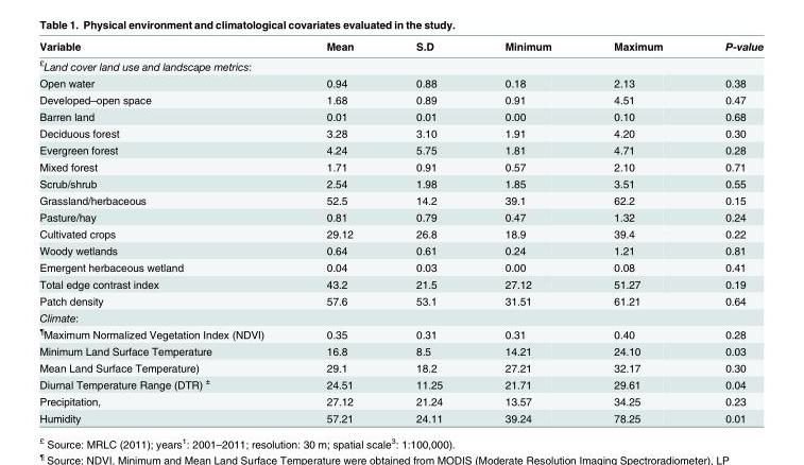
<table><thead><tr><td>Variable</td><td>Mean</td><td>S.D</td><td>Minimum</td><td>Maximum</td><td>P-value</td></tr></thead><tbody><tr><td colspan="6"><sup>£</sup>Land cover land use and landscape metrics:</td></tr><tr><td>Open water</td><td>0.94</td><td>0.88</td><td>0.18</td><td>2.13</td><td>0.38</td></tr><tr><td>Developed–open space</td><td>1.68</td><td>0.89</td><td>0.91</td><td>4.51</td><td>0.47</td></tr><tr><td>Barren land</td><td>0.01</td><td>0.01</td><td>0.00</td><td>0.10</td><td>0.68</td></tr><tr><td>Deciduous forest</td><td>3.28</td><td>3.10</td><td>1.91</td><td>4.20</td><td>0.30</td></tr><tr><td>Evergreen forest</td><td>4.24</td><td>5.75</td><td>1.81</td><td>4.71</td><td>0.28</td></tr><tr><td>Mixed forest</td><td>1.71</td><td>0.91</td><td>0.57</td><td>2.10</td><td>0.71</td></tr><tr><td>Scrub/shrub</td><td>2.54</td><td>1.98</td><td>1.85</td><td>3.51</td><td>0.55</td></tr><tr><td>Grassland/herbaceous</td><td>52.5</td><td>14.2</td><td>39.1</td><td>62.2</td><td>0.15</td></tr><tr><td>Pasture/hay</td><td>0.81</td><td>0.79</td><td>0.47</td><td>1.32</td><td>0.24</td></tr><tr><td>Cultivated crops</td><td>29.12</td><td>26.8</td><td>18.9</td><td>39.4</td><td>0.22</td></tr><tr><td>Woody wetlands</td><td>0.64</td><td>0.61</td><td>0.24</td><td>1.21</td><td>0.81</td></tr><tr><td>Emergent herbaceous wetland</td><td>0.04</td><td>0.03</td><td>0.00</td><td>0.08</td><td>0.41</td></tr><tr><td>Total edge contrast index</td><td>43.2</td><td>21.5</td><td>27.12</td><td>51.27</td><td>0.19</td></tr><tr><td>Patch density</td><td>57.6</td><td>53.1</td><td>31.51</td><td>61.21</td><td>0.64</td></tr><tr><td colspan="6">Climate:</td></tr><tr><td><sup>¶</sup>Maximum Normalized Vegetation Index (NDVI)</td><td>0.35</td><td>0.31</td><td>0.31</td><td>0.40</td><td>0.28</td></tr><tr><td>Minimum Land Surface Temperature</td><td>16.8</td><td>8.5</td><td>14.21</td><td>24.10</td><td>0.03</td></tr><tr><td>Mean Land Surface Temperature)</td><td>29.1</td><td>18.2</td><td>27.21</td><td>32.17</td><td>0.30</td></tr><tr><td>Diurnal Temperature Range (DTR) <sup>±</sup></td><td>24.51</td><td>11.25</td><td>21.71</td><td>29.61</td><td>0.04</td></tr><tr><td>Precipitation,</td><td>27.12</td><td>21.24</td><td>13.57</td><td>34.25</td><td>0.23</td></tr><tr><td>Humidity</td><td>57.21</td><td>24.11</td><td>39.24</td><td>78.25</td><td>0.01</td></tr></tbody></table>